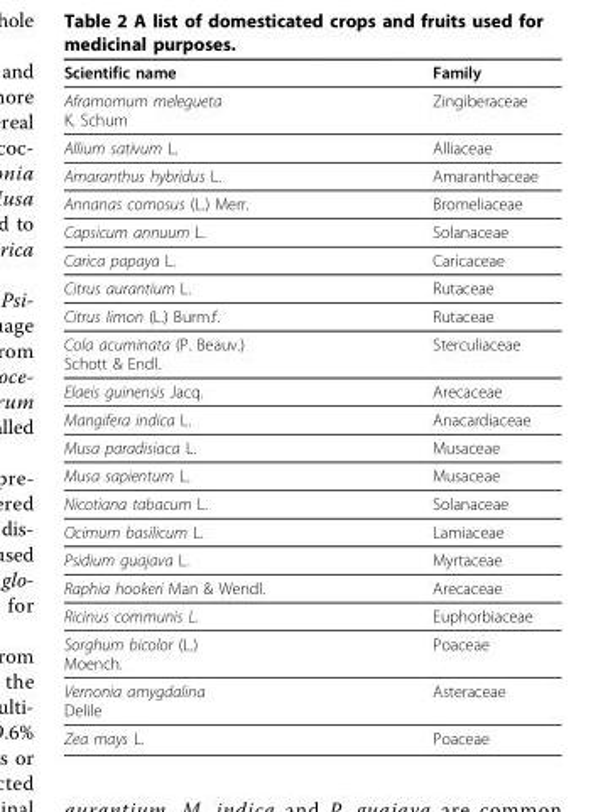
<table><thead><tr><td>Scientific name</td><td>Family</td></tr></thead><tbody><tr><td>Aframomum melegueta K. Schum</td><td>Zingiberaceae</td></tr><tr><td>Allium sativum L.</td><td>Alliaceae</td></tr><tr><td>Amaranthus hybridus L.</td><td>Amaranthaceae</td></tr><tr><td>Annanas comosus (L.) Merr.</td><td>Bromeliaceae</td></tr><tr><td>Capsicum annuum L.</td><td>Solanaceae</td></tr><tr><td>Carica papaya L.</td><td>Caricaceae</td></tr><tr><td>Citrus aurantium L.</td><td>Rutaceae</td></tr><tr><td>Citrus limon (L.) Burm.f.</td><td>Rutaceae</td></tr><tr><td>Cola acuminata (P. Beauv.) Schott &amp; Endl.</td><td>Sterculiaceae</td></tr><tr><td>Elaeis guinensis Jacq.</td><td>Arecaceae</td></tr><tr><td>Mangifera indica L.</td><td>Anacardiaceae</td></tr><tr><td>Musa paradisiaca L.</td><td>Musaceae</td></tr><tr><td>Musa sapientum L.</td><td>Musaceae</td></tr><tr><td>Nicotiana tabacum L.</td><td>Solanaceae</td></tr><tr><td>Ocimum basilicum L.</td><td>Lamiaceae</td></tr><tr><td>Psidium guajava L.</td><td>Myrtaceae</td></tr><tr><td>Raphia hookeri Man &amp; Wendl.</td><td>Arecaceae</td></tr><tr><td>Ricinus communis L.</td><td>Euphorbiaceae</td></tr><tr><td>Sorghum bicolor (L.) Moench.</td><td>Poaceae</td></tr><tr><td>Vernonia amygdalina Delile</td><td>Asteraceae</td></tr><tr><td>Zea mays L.</td><td>Poaceae</td></tr></tbody></table>